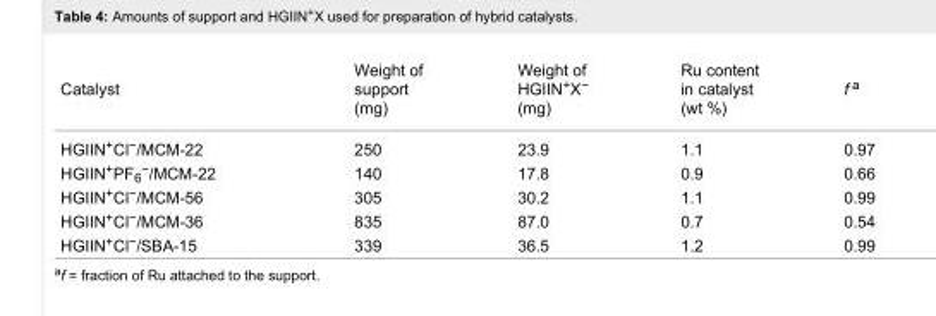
<table><tbody><tr><td>Catalyst</td><td>Weight of support (mg)</td><td>Weight of HGIIN<sup>+</sup>X<sup>−</sup> (mg)</td><td>Ru content in catalyst (wt %)</td><td>f <sup>a</sup></td></tr><tr><td>HGIIN<sup>+</sup>Cl<sup>−</sup>/MCM-22</td><td>250</td><td>23.9</td><td>1.1</td><td>0.97</td></tr><tr><td>HGIIN<sup>+</sup>PF<sub>6</sub><sup>−</sup>/MCM-22</td><td>140</td><td>17.8</td><td>0.9</td><td>0.66</td></tr><tr><td>HGIIN<sup>+</sup>Cl<sup>−</sup>/MCM-56</td><td>305</td><td>30.2</td><td>1.1</td><td>0.99</td></tr><tr><td>HGIIN<sup>+</sup>Cl<sup>−</sup>/MCM-36</td><td>835</td><td>87.0</td><td>0.7</td><td>0.54</td></tr><tr><td>HGIIN<sup>+</sup>Cl<sup>−</sup>/SBA-15</td><td>339</td><td>36.5</td><td>1.2</td><td>0.99</td></tr></tbody></table>